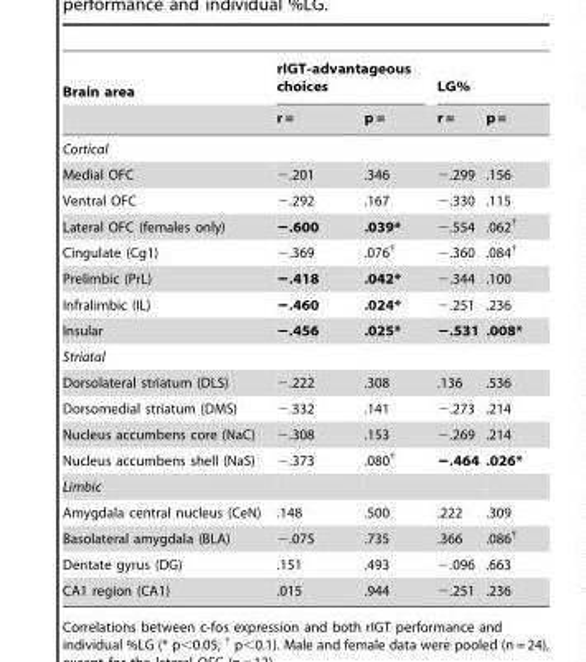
<table><thead><tr><td rowspan="2">Brain area</td><td colspan="2">rIGT-advantageous choices</td><td colspan="2">LG%</td></tr><tr><td>r =</td><td>p =</td><td>r =</td><td>p =</td></tr></thead><tbody><tr><td colspan="5">Cortical</td></tr><tr><td>Medial OFC</td><td>−.201</td><td>.346</td><td>−.299</td><td>.156</td></tr><tr><td>Ventral OFC</td><td>−.292</td><td>.167</td><td>−.330</td><td>.115</td></tr><tr><td>Lateral OFC (females only)</td><td>−.600</td><td>.039*</td><td>−.554</td><td>.062<sup>†</sup></td></tr><tr><td>Cingulate (Cg1)</td><td>−.369</td><td>.076<sup>†</sup></td><td>−.360</td><td>.084<sup>†</sup></td></tr><tr><td>Prelimbic (PrL)</td><td>−.418</td><td>.042*</td><td>−.344</td><td>.100</td></tr><tr><td>Infralimbic (IL)</td><td>−.460</td><td>.024*</td><td>−.251</td><td>.236</td></tr><tr><td>Insular</td><td>−.456</td><td>.025*</td><td>−.531</td><td>.008*</td></tr><tr><td colspan="5">Striatal</td></tr><tr><td>Dorsolateral striatum (DLS)</td><td>−.222</td><td>.308</td><td>.136</td><td>.536</td></tr><tr><td>Dorsomedial striatum (DMS)</td><td>−.332</td><td>.141</td><td>−.273</td><td>.214</td></tr><tr><td>Nucleus accumbens core (NaC)</td><td>−.308</td><td>.153</td><td>−.269</td><td>.214</td></tr><tr><td>Nucleus accumbens shell (NaS)</td><td>−.373</td><td>.080<sup>†</sup></td><td>−.464</td><td>.026*</td></tr><tr><td colspan="5">Limbic</td></tr><tr><td>Amygdala central nucleus (CeN)</td><td>.148</td><td>.500</td><td>.222</td><td>.309</td></tr><tr><td>Basolateral amygdala (BLA)</td><td>−.075</td><td>.735</td><td>.366</td><td>.086<sup>†</sup></td></tr><tr><td>Dentate gyrus (DG)</td><td>.151</td><td>.493</td><td>−.096</td><td>.663</td></tr><tr><td>CA1 region (CA1)</td><td>.015</td><td>.944</td><td>−.251</td><td>.236</td></tr></tbody></table>